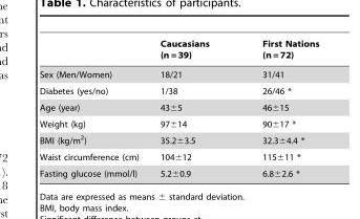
<table><thead><tr><td></td><td>Caucasians (n = 39)</td><td>First Nations (n = 72)</td></tr></thead><tbody><tr><td>Sex (Men/Women)</td><td>18/21</td><td>31/41</td></tr><tr><td>Diabetes (yes/no)</td><td>1/38</td><td>26/46 *</td></tr><tr><td>Age (year)</td><td>43±5</td><td>46±15</td></tr><tr><td>Weight (kg)</td><td>97±14</td><td>90±17 *</td></tr><tr><td>BMI (kg/m<sup>2</sup>)</td><td>35.2±3.5</td><td>32.3±4.4 *</td></tr><tr><td>Waist circumference (cm)</td><td>104±12</td><td>115±11 *</td></tr><tr><td>Fasting glucose (mmol/l)</td><td>5.2±0.9</td><td>6.8±2.6 *</td></tr></tbody></table>